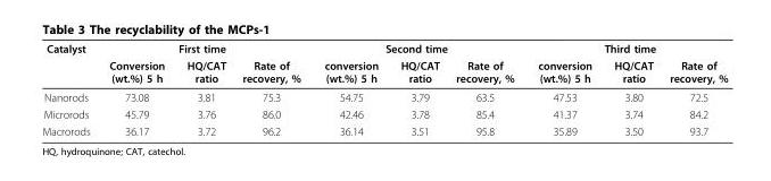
<table><thead><tr><td rowspan="2">Catalyst</td><td colspan="3">First time</td><td colspan="3">Second time</td><td colspan="3">Third time</td></tr><tr><td>Conversion (wt.%) 5 h</td><td>HQ/CAT ratio</td><td>Rate of recovery, %</td><td>conversion (wt.%) 5 h</td><td>HQ/CAT ratio</td><td>Rate of recovery, %</td><td>conversion (wt.%) 5 h</td><td>HQ/CAT ratio</td><td>Rate of recovery, %</td></tr></thead><tbody><tr><td>Nanorods</td><td>73.08</td><td>3.81</td><td>75.3</td><td>54.75</td><td>3.79</td><td>63.5</td><td>47.53</td><td>3.80</td><td>72.5</td></tr><tr><td>Microrods</td><td>45.79</td><td>3.76</td><td>86.0</td><td>42.46</td><td>3.78</td><td>85.4</td><td>41.37</td><td>3.74</td><td>84.2</td></tr><tr><td>Macrorods</td><td>36.17</td><td>3.72</td><td>96.2</td><td>36.14</td><td>3.51</td><td>95.8</td><td>35.89</td><td>3.50</td><td>93.7</td></tr></tbody></table>